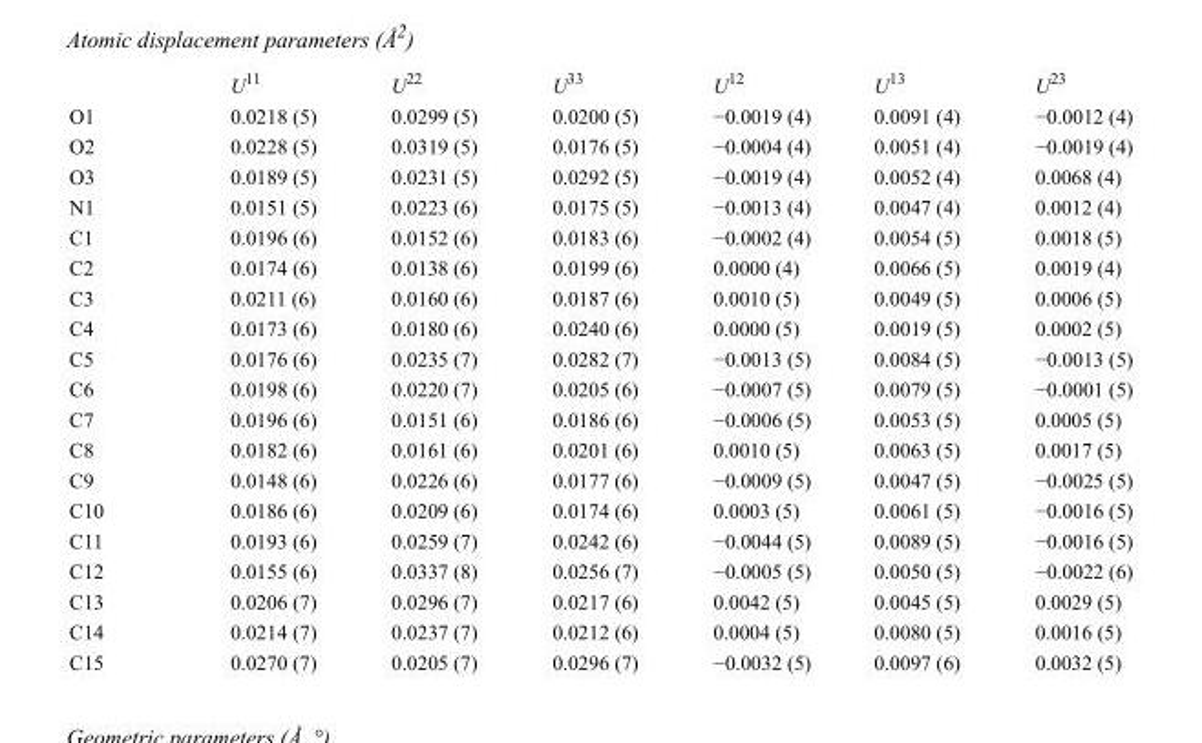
<table><thead><tr><td></td><td>U<sup>11</sup></td><td>U<sup>22</sup></td><td>U<sup>33</sup></td><td>U<sup>12</sup></td><td>U<sup>13</sup></td><td>U<sup>23</sup></td></tr></thead><tbody><tr><td>O1</td><td>0.0218 (5)</td><td>0.0299 (5)</td><td>0.0200 (5)</td><td>−0.0019 (4)</td><td>0.0091 (4)</td><td>−0.0012 (4)</td></tr><tr><td>O2</td><td>0.0228 (5)</td><td>0.0319 (5)</td><td>0.0176 (5)</td><td>−0.0004 (4)</td><td>0.0051 (4)</td><td>−0.0019 (4)</td></tr><tr><td>O3</td><td>0.0189 (5)</td><td>0.0231 (5)</td><td>0.0292 (5)</td><td>−0.0019 (4)</td><td>0.0052 (4)</td><td>0.0068 (4)</td></tr><tr><td>N1</td><td>0.0151 (5)</td><td>0.0223 (6)</td><td>0.0175 (5)</td><td>−0.0013 (4)</td><td>0.0047 (4)</td><td>0.0012 (4)</td></tr><tr><td>C1</td><td>0.0196 (6)</td><td>0.0152 (6)</td><td>0.0183 (6)</td><td>−0.0002 (4)</td><td>0.0054 (5)</td><td>0.0018 (5)</td></tr><tr><td>C2</td><td>0.0174 (6)</td><td>0.0138 (6)</td><td>0.0199 (6)</td><td>0.0000 (4)</td><td>0.0066 (5)</td><td>0.0019 (4)</td></tr><tr><td>C3</td><td>0.0211 (6)</td><td>0.0160 (6)</td><td>0.0187 (6)</td><td>0.0010 (5)</td><td>0.0049 (5)</td><td>0.0006 (5)</td></tr><tr><td>C4</td><td>0.0173 (6)</td><td>0.0180 (6)</td><td>0.0240 (6)</td><td>0.0000 (5)</td><td>0.0019 (5)</td><td>0.0002 (5)</td></tr><tr><td>C5</td><td>0.0176 (6)</td><td>0.0235 (7)</td><td>0.0282 (7)</td><td>−0.0013 (5)</td><td>0.0084 (5)</td><td>−0.0013 (5)</td></tr><tr><td>C6</td><td>0.0198 (6)</td><td>0.0220 (7)</td><td>0.0205 (6)</td><td>−0.0007 (5)</td><td>0.0079 (5)</td><td>−0.0001 (5)</td></tr><tr><td>C7</td><td>0.0196 (6)</td><td>0.0151 (6)</td><td>0.0186 (6)</td><td>−0.0006 (5)</td><td>0.0053 (5)</td><td>0.0005 (5)</td></tr><tr><td>C8</td><td>0.0182 (6)</td><td>0.0161 (6)</td><td>0.0201 (6)</td><td>0.0010 (5)</td><td>0.0063 (5)</td><td>0.0017 (5)</td></tr><tr><td>C9</td><td>0.0148 (6)</td><td>0.0226 (6)</td><td>0.0177 (6)</td><td>−0.0009 (5)</td><td>0.0047 (5)</td><td>−0.0025 (5)</td></tr><tr><td>C10</td><td>0.0186 (6)</td><td>0.0209 (6)</td><td>0.0174 (6)</td><td>0.0003 (5)</td><td>0.0061 (5)</td><td>−0.0016 (5)</td></tr><tr><td>C11</td><td>0.0193 (6)</td><td>0.0259 (7)</td><td>0.0242 (6)</td><td>−0.0044 (5)</td><td>0.0089 (5)</td><td>−0.0016 (5)</td></tr><tr><td>C12</td><td>0.0155 (6)</td><td>0.0337 (8)</td><td>0.0256 (7)</td><td>−0.0005 (5)</td><td>0.0050 (5)</td><td>−0.0022 (6)</td></tr><tr><td>C13</td><td>0.0206 (7)</td><td>0.0296 (7)</td><td>0.0217 (6)</td><td>0.0042 (5)</td><td>0.0045 (5)</td><td>0.0029 (5)</td></tr><tr><td>C14</td><td>0.0214 (7)</td><td>0.0237 (7)</td><td>0.0212 (6)</td><td>0.0004 (5)</td><td>0.0080 (5)</td><td>0.0016 (5)</td></tr><tr><td>C15</td><td>0.0270 (7)</td><td>0.0205 (7)</td><td>0.0296 (7)</td><td>−0.0032 (5)</td><td>0.0097 (6)</td><td>0.0032 (5)</td></tr></tbody></table>